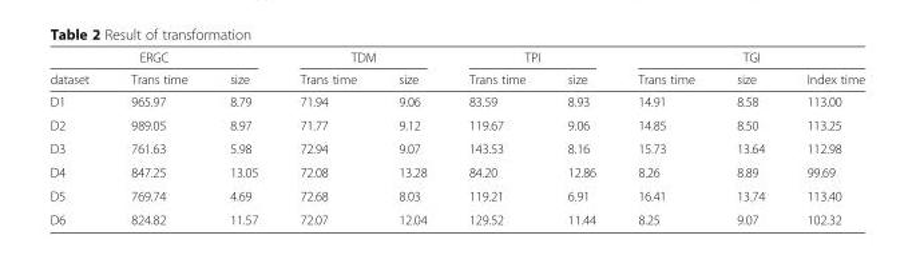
<table><thead><tr><td colspan="3">ERGC</td><td colspan="2">TDM</td><td colspan="2">TPI</td><td colspan="3">TGI</td></tr><tr><td>dataset</td><td>Trans time</td><td>size</td><td>Trans time</td><td>size</td><td>Trans time</td><td>size</td><td>Trans time</td><td>size</td><td>Index time</td></tr></thead><tbody><tr><td>D1</td><td>965.97</td><td>8.79</td><td>71.94</td><td>9.06</td><td>83.59</td><td>8.93</td><td>14.91</td><td>8.58</td><td>113.00</td></tr><tr><td>D2</td><td>989.05</td><td>8.97</td><td>71.77</td><td>9.12</td><td>119.67</td><td>9.06</td><td>14.85</td><td>8.50</td><td>113.25</td></tr><tr><td>D3</td><td>761.63</td><td>5.98</td><td>72.94</td><td>9.07</td><td>143.53</td><td>8.16</td><td>15.73</td><td>13.64</td><td>112.98</td></tr><tr><td>D4</td><td>847.25</td><td>13.05</td><td>72.08</td><td>13.28</td><td>84.20</td><td>12.86</td><td>8.26</td><td>8.89</td><td>99.69</td></tr><tr><td>D5</td><td>769.74</td><td>4.69</td><td>72.68</td><td>8.03</td><td>119.21</td><td>6.91</td><td>16.41</td><td>13.74</td><td>113.40</td></tr><tr><td>D6</td><td>824.82</td><td>11.57</td><td>72.07</td><td>12.04</td><td>129.52</td><td>11.44</td><td>8.25</td><td>9.07</td><td>102.32</td></tr></tbody></table>